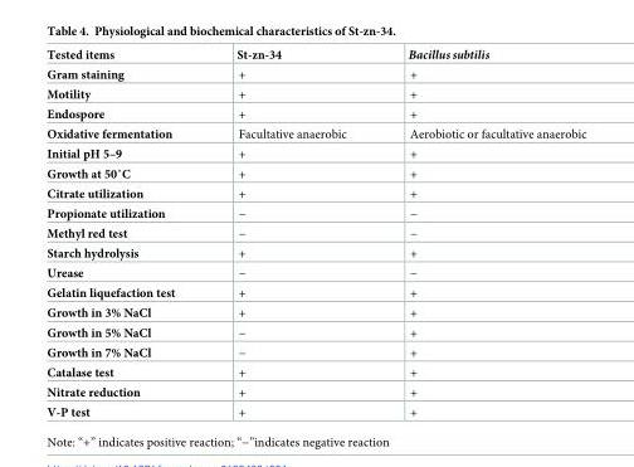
<table><thead><tr><td>Tested items</td><td>St-zn-34</td><td>Bacillus subtilis</td></tr></thead><tbody><tr><td>Gram staining</td><td>+</td><td>+</td></tr><tr><td>Motility</td><td>+</td><td>+</td></tr><tr><td>Endospore</td><td>+</td><td>+</td></tr><tr><td>Oxidative fermentation</td><td>Facultative anaerobic</td><td>Aerobiotic or facultative anaerobic</td></tr><tr><td>Initial pH 5–9</td><td>+</td><td>+</td></tr><tr><td>Growth at 50˚C</td><td>+</td><td>+</td></tr><tr><td>Citrate utilization</td><td>+</td><td>+</td></tr><tr><td>Propionate utilization</td><td>−</td><td>−</td></tr><tr><td>Methyl red test</td><td>−</td><td>−</td></tr><tr><td>Starch hydrolysis</td><td>+</td><td>+</td></tr><tr><td>Urease</td><td>−</td><td>−</td></tr><tr><td>Gelatin liquefaction test</td><td>+</td><td>+</td></tr><tr><td>Growth in 3% NaCl</td><td>+</td><td>+</td></tr><tr><td>Growth in 5% NaCl</td><td>−</td><td>+</td></tr><tr><td>Growth in 7% NaCl</td><td>−</td><td>+</td></tr><tr><td>Catalase test</td><td>+</td><td>+</td></tr><tr><td>Nitrate reduction</td><td>+</td><td>+</td></tr><tr><td>V-P test</td><td>+</td><td>+</td></tr></tbody></table>